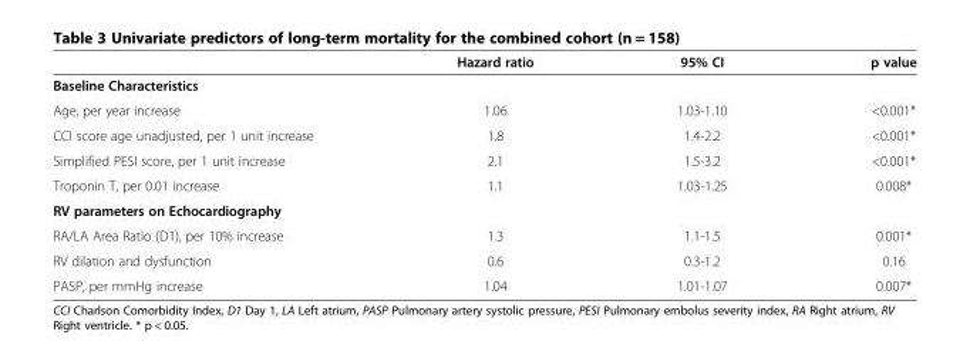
<table><thead><tr><td></td><td>Hazard ratio</td><td>95% CI</td><td>p value</td></tr></thead><tbody><tr><td colspan="4">Baseline Characteristics</td></tr><tr><td>Age, per year increase</td><td>1.06</td><td>1.03-1.10</td><td>&lt;0.001*</td></tr><tr><td>CCI score age unadjusted, per 1 unit increase</td><td>1.8</td><td>1.4-2.2</td><td>&lt;0.001*</td></tr><tr><td>Simplified PESI score, per 1 unit increase</td><td>2.1</td><td>1.5-3.2</td><td>&lt;0.001*</td></tr><tr><td>Troponin T, per 0.01 increase</td><td>1.1</td><td>1.03-1.25</td><td>0.008*</td></tr><tr><td colspan="4">RV parameters on Echocardiography</td></tr><tr><td>RA/LA Area Ratio (D1), per 10% increase</td><td>1.3</td><td>1.1-1.5</td><td>0.001*</td></tr><tr><td>RV dilation and dysfunction</td><td>0.6</td><td>0.3-1.2</td><td>0.16</td></tr><tr><td>PASP, per mmHg increase</td><td>1.04</td><td>1.01-1.07</td><td>0.007*</td></tr></tbody></table>